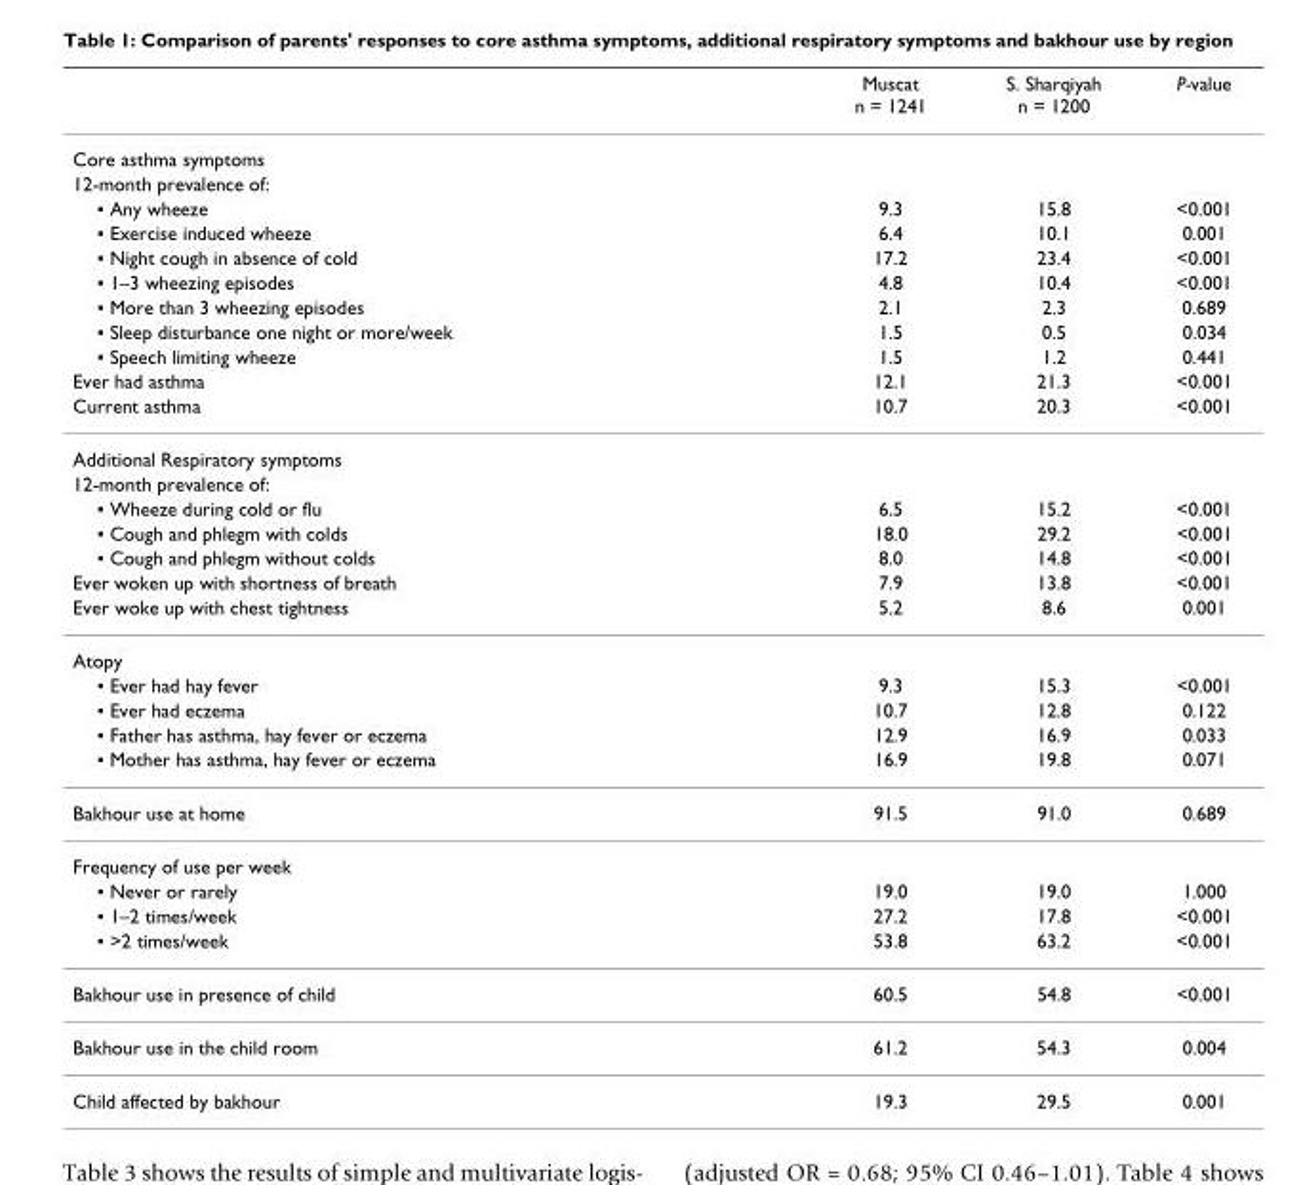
<table><thead><tr><td></td><td>Muscat n = 1241</td><td>S. Sharqiyah n = 1200</td><td>P-value</td></tr></thead><tbody><tr><td colspan="4">Core asthma symptoms</td></tr><tr><td colspan="4">12-month prevalence of:</td></tr><tr><td>▪ Any wheeze</td><td>9.3</td><td>15.8</td><td>&lt;0.001</td></tr><tr><td>▪ Exercise induced wheeze</td><td>6.4</td><td>10.1</td><td>0.001</td></tr><tr><td>▪ Night cough in absence of cold</td><td>17.2</td><td>23.4</td><td>&lt;0.001</td></tr><tr><td>▪ 1–3 wheezing episodes</td><td>4.8</td><td>10.4</td><td>&lt;0.001</td></tr><tr><td>▪ More than 3 wheezing episodes</td><td>2.1</td><td>2.3</td><td>0.689</td></tr><tr><td>▪ Sleep disturbance one night or more/week</td><td>1.5</td><td>0.5</td><td>0.034</td></tr><tr><td>▪ Speech limiting wheeze</td><td>1.5</td><td>1.2</td><td>0.441</td></tr><tr><td>Ever had asthma</td><td>12.1</td><td>21.3</td><td>&lt;0.001</td></tr><tr><td>Current asthma</td><td>10.7</td><td>20.3</td><td>&lt;0.001</td></tr><tr><td colspan="4">Additional Respiratory symptoms</td></tr><tr><td colspan="4">12-month prevalence of:</td></tr><tr><td>▪ Wheeze during cold or flu</td><td>6.5</td><td>15.2</td><td>&lt;0.001</td></tr><tr><td>▪ Cough and phlegm with colds</td><td>18.0</td><td>29.2</td><td>&lt;0.001</td></tr><tr><td>▪ Cough and phlegm without colds</td><td>8.0</td><td>14.8</td><td>&lt;0.001</td></tr><tr><td>Ever woken up with shortness of breath</td><td>7.9</td><td>13.8</td><td>&lt;0.001</td></tr><tr><td>Ever woke up with chest tightness</td><td>5.2</td><td>8.6</td><td>0.001</td></tr><tr><td colspan="4">Atopy</td></tr><tr><td>▪ Ever had hay fever</td><td>9.3</td><td>15.3</td><td>&lt;0.001</td></tr><tr><td>▪ Ever had eczema</td><td>10.7</td><td>12.8</td><td>0.122</td></tr><tr><td>▪ Father has asthma, hay fever or eczema</td><td>12.9</td><td>16.9</td><td>0.033</td></tr><tr><td>▪ Mother has asthma, hay fever or eczema</td><td>16.9</td><td>19.8</td><td>0.071</td></tr><tr><td>Bakhour use at home</td><td>91.5</td><td>91.0</td><td>0.689</td></tr><tr><td colspan="4">Frequency of use per week</td></tr><tr><td>▪ Never or rarely</td><td>19.0</td><td>19.0</td><td>1.000</td></tr><tr><td>▪ 1–2 times/week</td><td>27.2</td><td>17.8</td><td>&lt;0.001</td></tr><tr><td>▪ &gt;2 times/week</td><td>53.8</td><td>63.2</td><td>&lt;0.001</td></tr><tr><td>Bakhour use in presence of child</td><td>60.5</td><td>54.8</td><td>&lt;0.001</td></tr><tr><td>Bakhour use in the child room</td><td>61.2</td><td>54.3</td><td>0.004</td></tr><tr><td>Child affected by bakhour</td><td>19.3</td><td>29.5</td><td>0.001</td></tr></tbody></table>